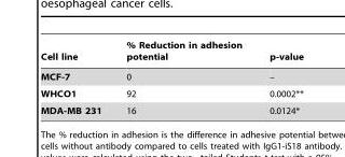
<table><thead><tr><td>Cell line</td><td>% Reduction in adhesion potential</td><td>p-value</td></tr></thead><tbody><tr><td>MCF-7</td><td>0</td><td>–</td></tr><tr><td>WHCO1</td><td>92</td><td>0.0002**</td></tr><tr><td>MDA-MB 231</td><td>16</td><td>0.0124*</td></tr></tbody></table>